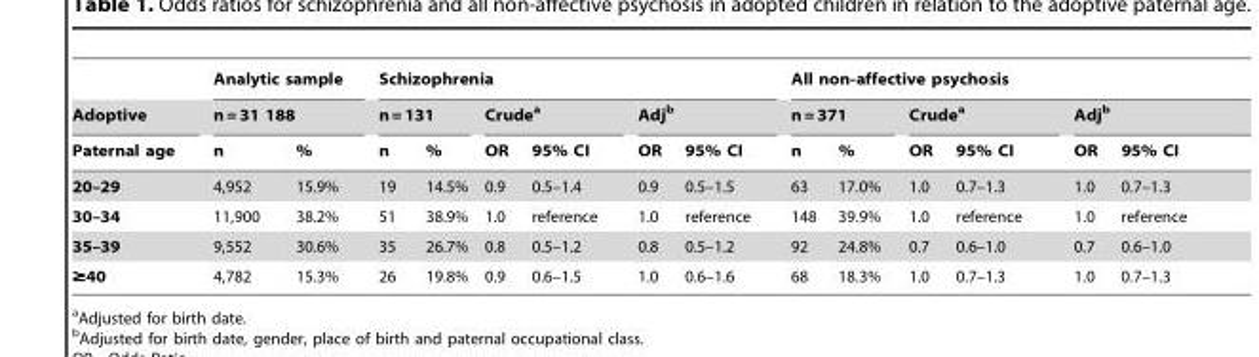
<table><thead><tr><td rowspan="3">Adoptive Paternal age</td><td rowspan="2" colspan="2">Analytic sample n = 31 188</td><td colspan="6">Schizophrenia</td><td colspan="6">All non-affective psychosis</td></tr><tr><td colspan="2">n = 131</td><td colspan="2">Crude<sup>a</sup></td><td colspan="2">Adj<sup>b</sup></td><td colspan="2">n = 371</td><td colspan="2">Crude<sup>a</sup></td><td colspan="2">Adj<sup>b</sup></td></tr><tr><td>n</td><td>%</td><td>n</td><td>%</td><td>OR</td><td>95% CI</td><td>OR</td><td>95% CI</td><td>n</td><td>%</td><td>OR</td><td>95% CI</td><td>OR</td><td>95% CI</td></tr></thead><tbody><tr><td>20–29</td><td>4,952</td><td>15.9%</td><td>19</td><td>14.5%</td><td>0.9</td><td>0.5–1.4</td><td>0.9</td><td>0.5–1.5</td><td>63</td><td>17.0%</td><td>1.0</td><td>0.7–1.3</td><td>1.0</td><td>0.7–1.3</td></tr><tr><td>30–34</td><td>11,900</td><td>38.2%</td><td>51</td><td>38.9%</td><td>1.0</td><td>reference</td><td>1.0</td><td>reference</td><td>148</td><td>39.9%</td><td>1.0</td><td>reference</td><td>1.0</td><td>reference</td></tr><tr><td>35–39</td><td>9,552</td><td>30.6%</td><td>35</td><td>26.7%</td><td>0.8</td><td>0.5–1.2</td><td>0.8</td><td>0.5–1.2</td><td>92</td><td>24.8%</td><td>0.7</td><td>0.6–1.0</td><td>0.7</td><td>0.6–1.0</td></tr><tr><td>≥40</td><td>4,782</td><td>15.3%</td><td>26</td><td>19.8%</td><td>0.9</td><td>0.6–1.5</td><td>1.0</td><td>0.6–1.6</td><td>68</td><td>18.3%</td><td>1.0</td><td>0.7–1.3</td><td>1.0</td><td>0.7–1.3</td></tr></tbody></table>